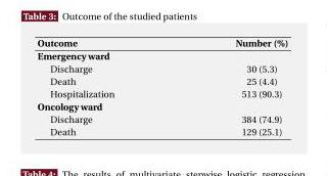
<table><thead><tr><td>Outcome</td><td>Number (%)</td></tr></thead><tbody><tr><td colspan="2">Emergency ward</td></tr><tr><td>Discharge</td><td>30 (5.3)</td></tr><tr><td>Death</td><td>25 (4.4)</td></tr><tr><td>Hospitalization</td><td>513 (90.3)</td></tr><tr><td colspan="2">Oncology ward</td></tr><tr><td>Discharge</td><td>384 (74.9)</td></tr><tr><td>Death</td><td>129 (25.1)</td></tr></tbody></table>